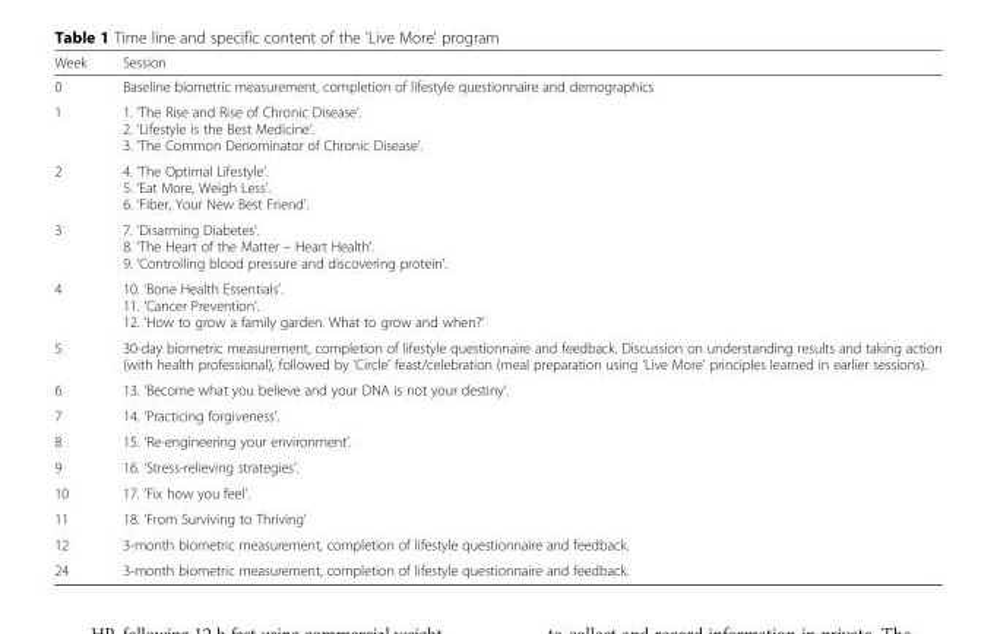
<table><thead><tr><td>Week</td><td>Session</td></tr></thead><tbody><tr><td>0</td><td>Baseline biometric measurement, completion of lifestyle questionnaire and demographics</td></tr><tr><td>1</td><td>1. ‘The Rise and Rise of Chronic Disease’. 2. ‘Lifestyle is the Best Medicine’. 3. ‘The Common Denominator of Chronic Disease’.</td></tr><tr><td>2</td><td>4. ‘The Optimal Lifestyle’. 5. ‘Eat More, Weigh Less’. 6. ‘Fiber, Your New Best Friend’.</td></tr><tr><td>3</td><td>7. ‘Disarming Diabetes’. 8. ‘The Heart of the Matter – Heart Health’. 9. ‘Controlling blood pressure and discovering protein’.</td></tr><tr><td>4</td><td>10. ‘Bone Health Essentials’. 11. ‘Cancer Prevention’. 12. ‘How to grow a family garden. What to grow and when?’</td></tr><tr><td>5</td><td>30-day biometric measurement, completion of lifestyle questionnaire and feedback. Discussion on understanding results and taking action (with health professional), followed by ‘Circle’ feast/celebration (meal preparation using ‘Live More’ principles learned in earlier sessions).</td></tr><tr><td>6</td><td>13. ‘Become what you believe and your DNA is not your destiny’.</td></tr><tr><td>7</td><td>14. ‘Practicing forgiveness’.</td></tr><tr><td>8</td><td>15. ‘Re-engineering your environment’.</td></tr><tr><td>9</td><td>16. ‘Stress-relieving strategies’.</td></tr><tr><td>10</td><td>17. ‘Fix how you feel’.</td></tr><tr><td>11</td><td>18. ‘From Surviving to Thriving’</td></tr><tr><td>12</td><td>3-month biometric measurement, completion of lifestyle questionnaire and feedback.</td></tr><tr><td>24</td><td>3-month biometric measurement, completion of lifestyle questionnaire and feedback.</td></tr></tbody></table>